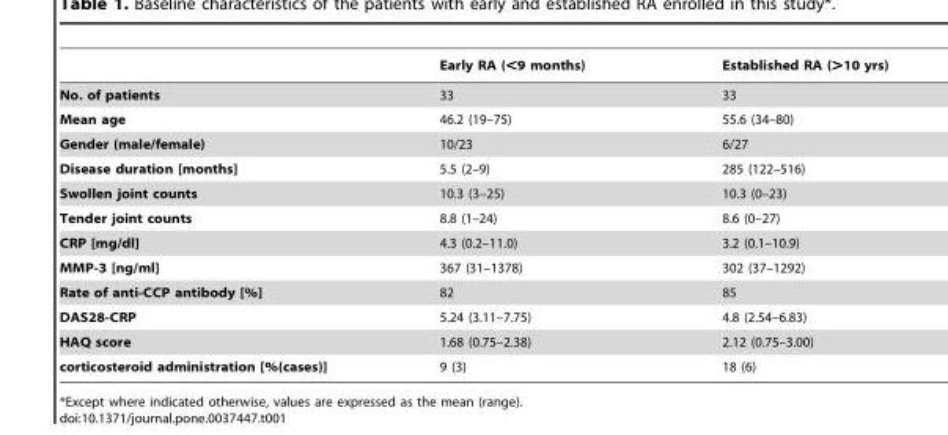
<table><thead><tr><td></td><td>Early RA (&lt;9 months)</td><td>Established RA (&gt;10 yrs)</td></tr></thead><tbody><tr><td>No. of patients</td><td>33</td><td>33</td></tr><tr><td>Mean age</td><td>46.2 (19–75)</td><td>55.6 (34–80)</td></tr><tr><td>Gender (male/female)</td><td>10/23</td><td>6/27</td></tr><tr><td>Disease duration [months]</td><td>5.5 (2–9)</td><td>285 (122–516)</td></tr><tr><td>Swollen joint counts</td><td>10.3 (3–25)</td><td>10.3 (0–23)</td></tr><tr><td>Tender joint counts</td><td>8.8 (1–24)</td><td>8.6 (0–27)</td></tr><tr><td>CRP [mg/dl]</td><td>4.3 (0.2–11.0)</td><td>3.2 (0.1–10.9)</td></tr><tr><td>MMP-3 [ng/ml]</td><td>367 (31–1378)</td><td>302 (37–1292)</td></tr><tr><td>Rate of anti-CCP antibody [%]</td><td>82</td><td>85</td></tr><tr><td>DAS28-CRP</td><td>5.24 (3.11–7.75)</td><td>4.8 (2.54–6.83)</td></tr><tr><td>HAQ score</td><td>1.68 (0.75–2.38)</td><td>2.12 (0.75–3.00)</td></tr><tr><td>corticosteroid administration [%(cases)]</td><td>9 (3)</td><td>18 (6)</td></tr></tbody></table>